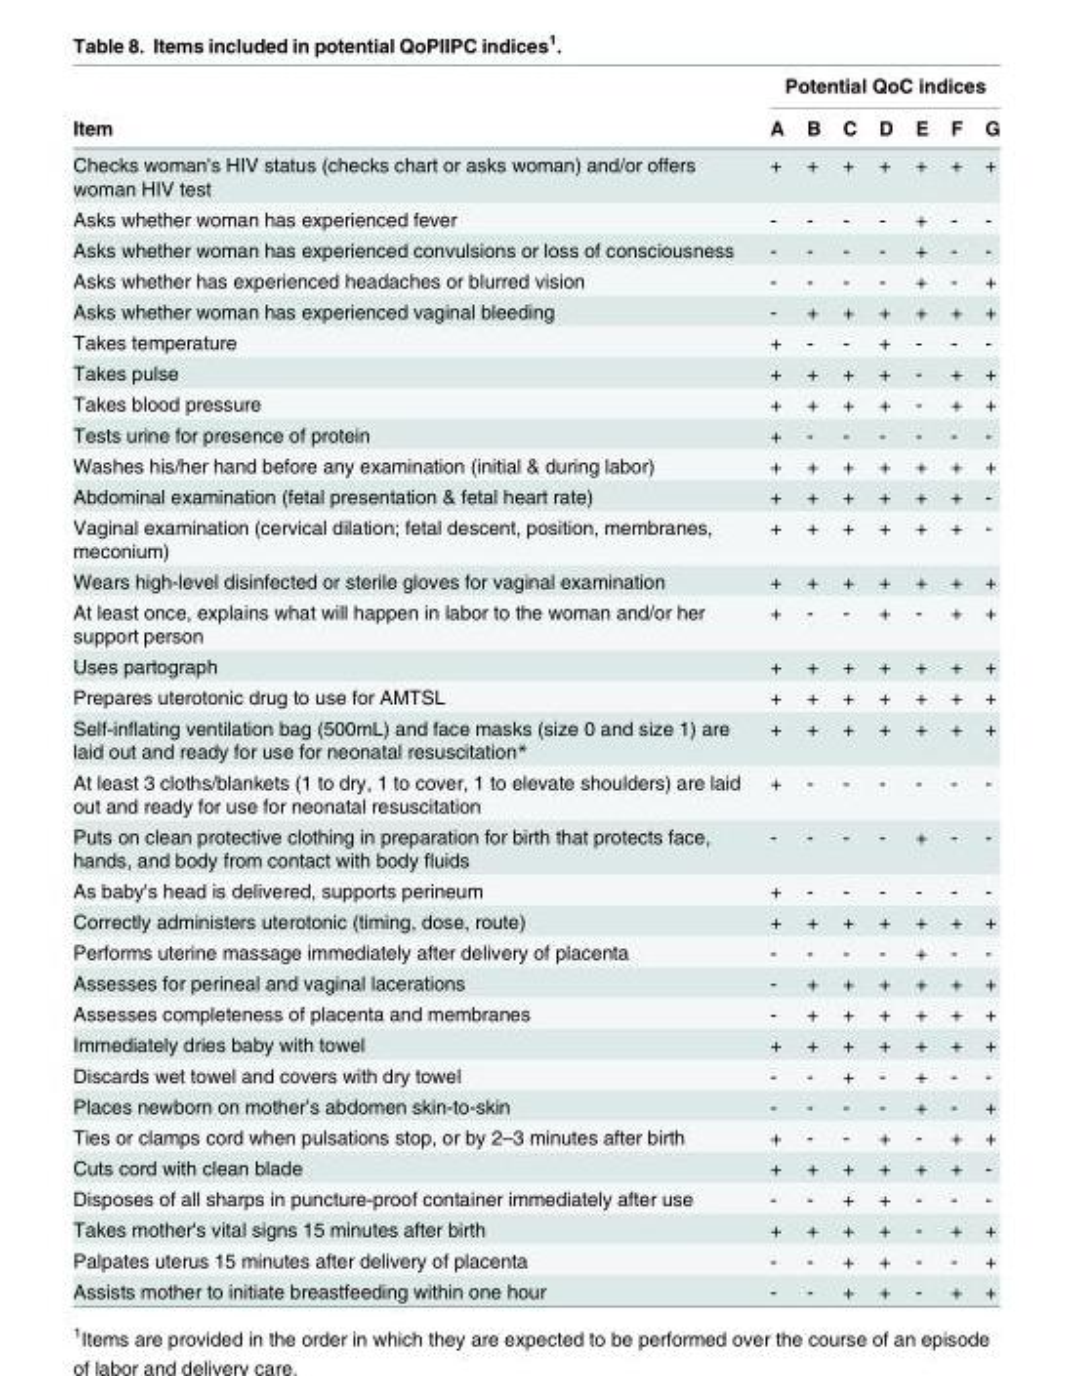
<table><thead><tr><td rowspan="2">Item</td><td colspan="7">Potential QoC indices</td></tr><tr><td>A</td><td>B</td><td>C</td><td>D</td><td>E</td><td>F</td><td>G</td></tr></thead><tbody><tr><td>Checks woman&#x27;s HIV status (checks chart or asks woman) and/or offers woman HIV test</td><td>+</td><td>+</td><td>+</td><td>+</td><td>+</td><td>+</td><td>+</td></tr><tr><td>Asks whether woman has experienced fever</td><td>-</td><td>-</td><td>-</td><td>-</td><td>+</td><td>-</td><td>-</td></tr><tr><td>Asks whether woman has experienced convulsions or loss of consciousness</td><td>-</td><td>-</td><td>-</td><td>-</td><td>+</td><td>-</td><td>-</td></tr><tr><td>Asks whether has experienced headaches or blurred vision</td><td>-</td><td>-</td><td>-</td><td>-</td><td>+</td><td>-</td><td>+</td></tr><tr><td>Asks whether woman has experienced vaginal bleeding</td><td>-</td><td>+</td><td>+</td><td>+</td><td>+</td><td>+</td><td>+</td></tr><tr><td>Takes temperature</td><td>+</td><td>-</td><td>-</td><td>+</td><td>-</td><td>-</td><td>-</td></tr><tr><td>Takes pulse</td><td>+</td><td>+</td><td>+</td><td>+</td><td>-</td><td>+</td><td>+</td></tr><tr><td>Takes blood pressure</td><td>+</td><td>+</td><td>+</td><td>+</td><td>-</td><td>+</td><td>+</td></tr><tr><td>Tests urine for presence of protein</td><td>+</td><td>-</td><td>-</td><td>-</td><td>-</td><td>-</td><td>-</td></tr><tr><td>Washes his/her hand before any examination (initial &amp; during labor)</td><td>+</td><td>+</td><td>+</td><td>+</td><td>+</td><td>+</td><td>+</td></tr><tr><td>Abdominal examination (fetal presentation &amp; fetal heart rate)</td><td>+</td><td>+</td><td>+</td><td>+</td><td>+</td><td>+</td><td>-</td></tr><tr><td>Vaginal examination (cervical dilation; fetal descent, position, membranes, meconium)</td><td>+</td><td>+</td><td>+</td><td>+</td><td>+</td><td>+</td><td>-</td></tr><tr><td>Wears high-level disinfected or sterile gloves for vaginal examination</td><td>+</td><td>+</td><td>+</td><td>+</td><td>+</td><td>+</td><td>+</td></tr><tr><td>At least once, explains what will happen in labor to the woman and/or her support person</td><td>+</td><td>-</td><td>-</td><td>+</td><td>-</td><td>+</td><td>+</td></tr><tr><td>Uses partograph</td><td>+</td><td>+</td><td>+</td><td>+</td><td>+</td><td>+</td><td>+</td></tr><tr><td>Prepares uterotonic drug to use for AMTSL</td><td>+</td><td>+</td><td>+</td><td>+</td><td>+</td><td>+</td><td>+</td></tr><tr><td>Self-inflating ventilation bag (500mL) and face masks (size 0 and size 1) are laid out and ready for use for neonatal resuscitation*</td><td>+</td><td>+</td><td>+</td><td>+</td><td>+</td><td>+</td><td>+</td></tr><tr><td>At least 3 cloths/blankets (1 to dry, 1 to cover, 1 to elevate shoulders) are laid out and ready for use for neonatal resuscitation</td><td>+</td><td>-</td><td>-</td><td>-</td><td>-</td><td>-</td><td>-</td></tr><tr><td>Puts on clean protective clothing in preparation for birth that protects face, hands, and body from contact with body fluids</td><td>-</td><td>-</td><td>-</td><td>-</td><td>+</td><td>-</td><td>-</td></tr><tr><td>As baby&#x27;s head is delivered, supports perineum</td><td>+</td><td>-</td><td>-</td><td>-</td><td>-</td><td>-</td><td>-</td></tr><tr><td>Correctly administers uterotonic (timing, dose, route)</td><td>+</td><td>+</td><td>+</td><td>+</td><td>+</td><td>+</td><td>+</td></tr><tr><td>Performs uterine massage immediately after delivery of placenta</td><td>-</td><td>-</td><td>-</td><td>-</td><td>+</td><td>-</td><td>-</td></tr><tr><td>Assesses for perineal and vaginal lacerations</td><td>-</td><td>+</td><td>+</td><td>+</td><td>+</td><td>+</td><td>+</td></tr><tr><td>Assesses completeness of placenta and membranes</td><td>-</td><td>+</td><td>+</td><td>+</td><td>+</td><td>+</td><td>+</td></tr><tr><td>Immediately dries baby with towel</td><td>+</td><td>+</td><td>+</td><td>+</td><td>+</td><td>+</td><td>+</td></tr><tr><td>Discards wet towel and covers with dry towel</td><td>-</td><td>-</td><td>+</td><td>-</td><td>+</td><td>-</td><td>-</td></tr><tr><td>Places newborn on mother’s abdomen skin-to-skin</td><td>-</td><td>-</td><td>-</td><td>-</td><td>+</td><td>-</td><td>+</td></tr><tr><td>Ties or clamps cord when pulsations stop, or by 2–3 minutes after birth</td><td>+</td><td>-</td><td>-</td><td>+</td><td>-</td><td>+</td><td>+</td></tr><tr><td>Cuts cord with clean blade</td><td>+</td><td>+</td><td>+</td><td>+</td><td>+</td><td>+</td><td>-</td></tr><tr><td>Disposes of all sharps in puncture-proof container immediately after use</td><td>-</td><td>-</td><td>+</td><td>+</td><td>-</td><td>-</td><td>-</td></tr><tr><td>Takes mother&#x27;s vital signs 15 minutes after birth</td><td>+</td><td>+</td><td>+</td><td>+</td><td>-</td><td>+</td><td>+</td></tr><tr><td>Palpates uterus 15 minutes after delivery of placenta</td><td>-</td><td>-</td><td>+</td><td>+</td><td>-</td><td>-</td><td>+</td></tr><tr><td>Assists mother to initiate breastfeeding within one hour</td><td>-</td><td>-</td><td>+</td><td>+</td><td>-</td><td>+</td><td>+</td></tr></tbody></table>